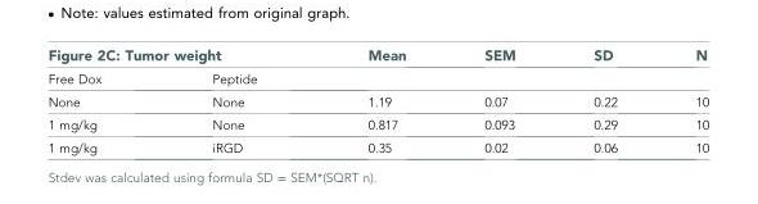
<table><thead><tr><td colspan="2">Figure 2C: Tumor weight</td><td>Mean</td><td>SEM</td><td>SD</td><td>N</td></tr><tr><td>Free Dox</td><td>Peptide</td><td colspan="4"></td></tr></thead><tbody><tr><td>None</td><td>None</td><td>1.19</td><td>0.07</td><td>0.22</td><td>10</td></tr><tr><td>1 mg/kg</td><td>None</td><td>0.817</td><td>0.093</td><td>0.29</td><td>10</td></tr><tr><td>1 mg/kg</td><td>iRGD</td><td>0.35</td><td>0.02</td><td>0.06</td><td>10</td></tr></tbody></table>